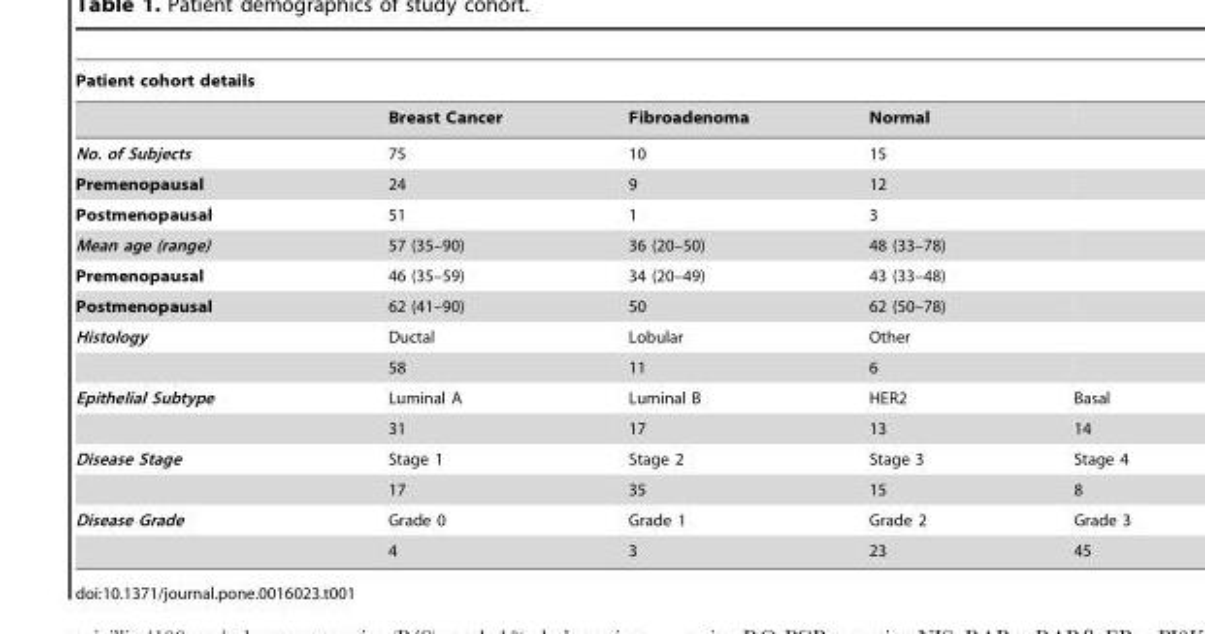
<table><thead><tr><td colspan="5">Patient cohort details</td></tr><tr><td></td><td>Breast Cancer</td><td>Fibroadenoma</td><td>Normal</td><td></td></tr></thead><tbody><tr><td>No. of Subjects</td><td>75</td><td>10</td><td>15</td><td></td></tr><tr><td>Premenopausal</td><td>24</td><td>9</td><td>12</td><td></td></tr><tr><td>Postmenopausal</td><td>51</td><td>1</td><td>3</td><td></td></tr><tr><td>Mean age (range)</td><td>57 (35–90)</td><td>36 (20–50)</td><td>48 (33–78)</td><td></td></tr><tr><td>Premenopausal</td><td>46 (35–59)</td><td>34 (20–49)</td><td>43 (33–48)</td><td></td></tr><tr><td>Postmenopausal</td><td>62 (41–90)</td><td>50</td><td>62 (50–78)</td><td></td></tr><tr><td rowspan="2">Histology</td><td>Ductal</td><td>Lobular</td><td>Other</td><td></td></tr><tr><td>58</td><td>11</td><td>6</td><td></td></tr><tr><td rowspan="2">Epithelial Subtype</td><td>Luminal A</td><td>Luminal B</td><td>HER2</td><td>Basal</td></tr><tr><td>31</td><td>17</td><td>13</td><td>14</td></tr><tr><td rowspan="2">Disease Stage</td><td>Stage 1</td><td>Stage 2</td><td>Stage 3</td><td>Stage 4</td></tr><tr><td>17</td><td>35</td><td>15</td><td>8</td></tr><tr><td rowspan="2">Disease Grade</td><td>Grade 0</td><td>Grade 1</td><td>Grade 2</td><td>Grade 3</td></tr><tr><td>4</td><td>3</td><td>23</td><td>45</td></tr></tbody></table>